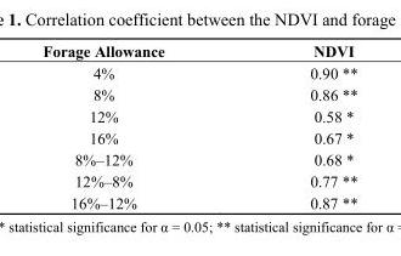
<table><thead><tr><td>Forage Allowance</td><td>NDVI</td></tr></thead><tbody><tr><td>4%</td><td>0.90 **</td></tr><tr><td>8%</td><td>0.86 **</td></tr><tr><td>12%</td><td>0.58 *</td></tr><tr><td>16%</td><td>0.67 *</td></tr><tr><td>8%–12%</td><td>0.68 *</td></tr><tr><td>12%–8%</td><td>0.77 **</td></tr><tr><td>16%–12%</td><td>0.87 **</td></tr></tbody></table>